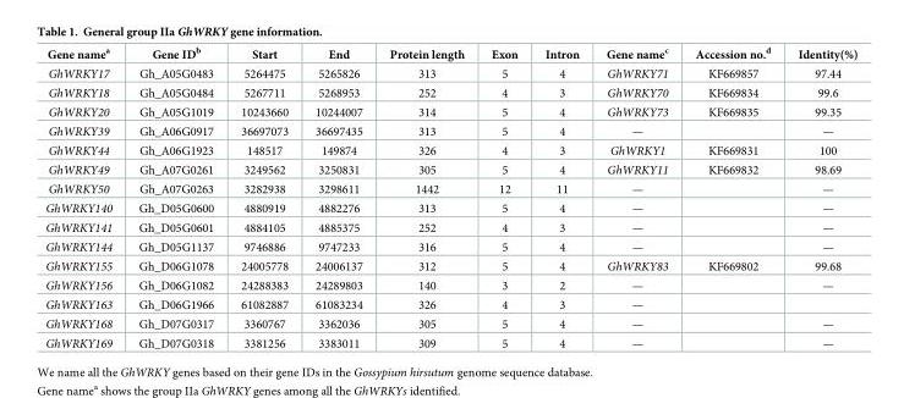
<table><thead><tr><td>Gene name<sup>a</sup></td><td>Gene ID<sup>b</sup></td><td>Start</td><td>End</td><td>Protein length</td><td>Exon</td><td>Intron</td><td>Gene name<sup>c</sup></td><td>Accession no.<sup>d</sup></td><td>Identity(%)</td></tr></thead><tbody><tr><td>GhWRKY17</td><td>Gh_A05G0483</td><td>5264475</td><td>5265826</td><td>313</td><td>5</td><td>4</td><td>GhWRKY71</td><td>KF669857</td><td>97.44</td></tr><tr><td>GhWRKY18</td><td>Gh_A05G0484</td><td>5267711</td><td>5268953</td><td>252</td><td>4</td><td>3</td><td>GhWRKY70</td><td>KF669834</td><td>99.6</td></tr><tr><td>GhWRKY20</td><td>Gh_A05G1019</td><td>10243660</td><td>10244007</td><td>314</td><td>5</td><td>4</td><td>GhWRKY73</td><td>KF669835</td><td>99.35</td></tr><tr><td>GhWRKY39</td><td>Gh_A06G0917</td><td>36697073</td><td>36697435</td><td>313</td><td>5</td><td>4</td><td>—</td><td></td><td>—</td></tr><tr><td>GhWRKY44</td><td>Gh_A06G1923</td><td>148517</td><td>149874</td><td>326</td><td>4</td><td>3</td><td>GhWRKY1</td><td>KF669831</td><td>100</td></tr><tr><td>GhWRKY49</td><td>Gh_A07G0261</td><td>3249562</td><td>3250831</td><td>305</td><td>5</td><td>4</td><td>GhWRKY11</td><td>KF669832</td><td>98.69</td></tr><tr><td>GhWRKY50</td><td>Gh_A07G0263</td><td>3282938</td><td>3298611</td><td>1442</td><td>12</td><td>11</td><td>—</td><td></td><td>—</td></tr><tr><td>GhWRKY140</td><td>Gh_D05G0600</td><td>4880919</td><td>4882276</td><td>313</td><td>5</td><td>4</td><td>—</td><td></td><td>—</td></tr><tr><td>GhWRKY141</td><td>Gh_D05G0601</td><td>4884105</td><td>4885375</td><td>252</td><td>4</td><td>3</td><td>—</td><td></td><td>—</td></tr><tr><td>GhWRKY144</td><td>Gh_D05G1137</td><td>9746886</td><td>9747233</td><td>316</td><td>5</td><td>4</td><td>—</td><td></td><td>—</td></tr><tr><td>GhWRKY155</td><td>Gh_D06G1078</td><td>24005778</td><td>24006137</td><td>312</td><td>5</td><td>4</td><td>GhWRKY83</td><td>KF669802</td><td>99.68</td></tr><tr><td>GhWRKY156</td><td>Gh_D06G1082</td><td>24288383</td><td>24289803</td><td>140</td><td>3</td><td>2</td><td>—</td><td></td><td>—</td></tr><tr><td>GhWRKY163</td><td>Gh_D06G1966</td><td>61082887</td><td>61083234</td><td>326</td><td>4</td><td>3</td><td>—</td><td></td><td></td></tr><tr><td>GhWRKY168</td><td>Gh_D07G0317</td><td>3360767</td><td>3362036</td><td>305</td><td>5</td><td>4</td><td>—</td><td></td><td>—</td></tr><tr><td>GhWRKY169</td><td>Gh_D07G0318</td><td>3381256</td><td>3383011</td><td>309</td><td>5</td><td>4</td><td>—</td><td></td><td>—</td></tr></tbody></table>